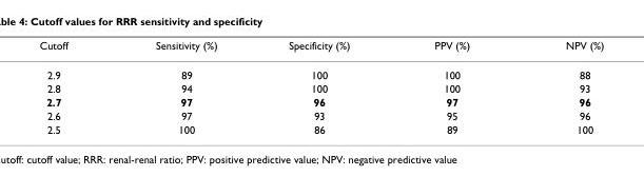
<table><thead><tr><td>Cutoff</td><td>Sensitivity (%)</td><td>Specificity (%)</td><td>PPV (%)</td><td>NPV (%)</td></tr></thead><tbody><tr><td>2.9</td><td>89</td><td>100</td><td>100</td><td>88</td></tr><tr><td>2.8</td><td>94</td><td>100</td><td>100</td><td>93</td></tr><tr><td>2.7</td><td>97</td><td>96</td><td>97</td><td>96</td></tr><tr><td>2.6</td><td>97</td><td>93</td><td>95</td><td>96</td></tr><tr><td>2.5</td><td>100</td><td>86</td><td>89</td><td>100</td></tr></tbody></table>